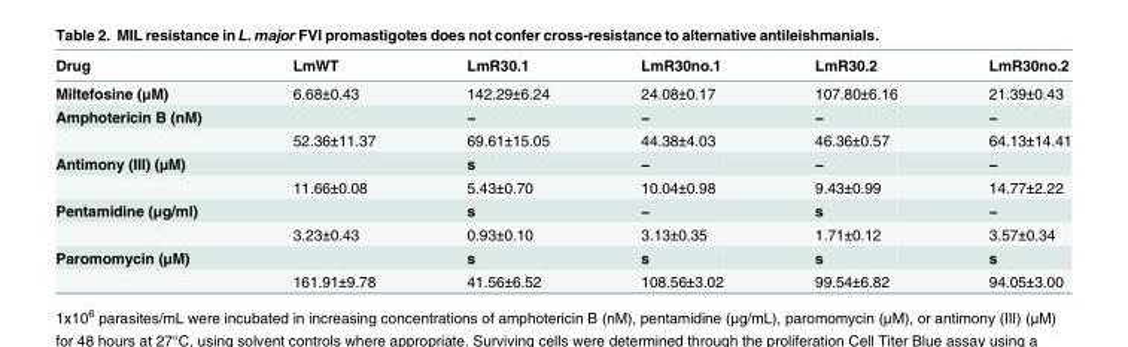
<table><thead><tr><td>Drug</td><td>LmWT</td><td>LmR30.1</td><td>LmR30no.1</td><td>LmR30.2</td><td>LmR30no.2</td></tr></thead><tbody><tr><td>Miltefosine (μM)</td><td>6.68±0.43</td><td>142.29±6.24</td><td>24.08±0.17</td><td>107.80±6.16</td><td>21.39±0.43</td></tr><tr><td rowspan="2">Amphotericin B (nM)</td><td></td><td>−</td><td>−</td><td>−</td><td>−</td></tr><tr><td>52.36±11.37</td><td>69.61±15.05</td><td>44.38±4.03</td><td>46.36±0.57</td><td>64.13±14.41</td></tr><tr><td rowspan="2">Antimony (III) (μM)</td><td></td><td>s</td><td>−</td><td>−</td><td>−</td></tr><tr><td>11.66±0.08</td><td>5.43±0.70</td><td>10.04±0.98</td><td>9.43±0.99</td><td>14.77±2.22</td></tr><tr><td rowspan="2">Pentamidine (μg/ml)</td><td></td><td>s</td><td>−</td><td>s</td><td>−</td></tr><tr><td>3.23±0.43</td><td>0.93±0.10</td><td>3.13±0.35</td><td>1.71±0.12</td><td>3.57±0.34</td></tr><tr><td rowspan="2">Paromomycin (μM)</td><td></td><td>s</td><td>s</td><td>s</td><td>s</td></tr><tr><td>161.91±9.78</td><td>41.56±6.52</td><td>108.56±3.02</td><td>99.54±6.82</td><td>94.05±3.00</td></tr></tbody></table>